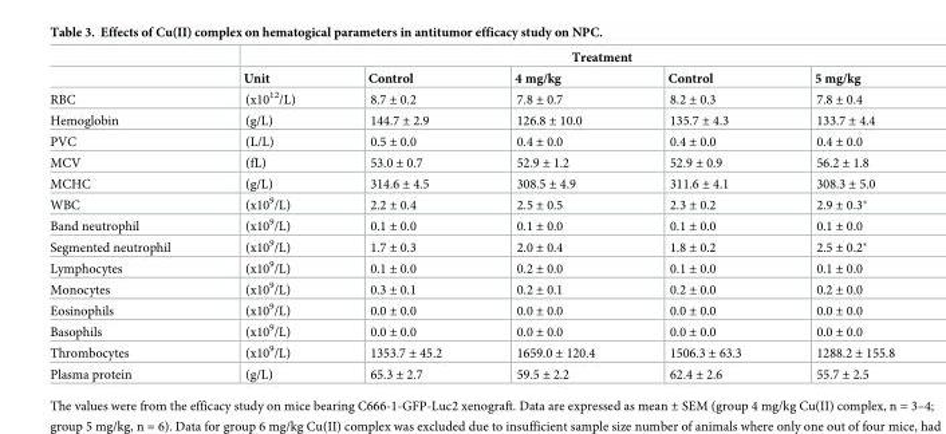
<table><thead><tr><td rowspan="2"></td><td colspan="5">Treatment</td></tr><tr><td>Unit</td><td>Control</td><td>4 mg/kg</td><td>Control</td><td>5 mg/kg</td></tr></thead><tbody><tr><td>RBC</td><td>(x10<sup>12</sup>/L)</td><td>8.7 ± 0.2</td><td>7.8 ± 0.7</td><td>8.2 ± 0.3</td><td>7.8 ± 0.4</td></tr><tr><td>Hemoglobin</td><td>(g/L)</td><td>144.7 ± 2.9</td><td>126.8 ± 10.0</td><td>135.7 ± 4.3</td><td>133.7 ± 4.4</td></tr><tr><td>PVC</td><td>(L/L)</td><td>0.5 ± 0.0</td><td>0.4 ± 0.0</td><td>0.4 ± 0.0</td><td>0.4 ± 0.0</td></tr><tr><td>MCV</td><td>(fL)</td><td>53.0 ± 0.7</td><td>52.9 ± 1.2</td><td>52.9 ± 0.9</td><td>56.2 ± 1.8</td></tr><tr><td>MCHC</td><td>(g/L)</td><td>314.6 ± 4.5</td><td>308.5 ± 4.9</td><td>311.6 ± 4.1</td><td>308.3 ± 5.0</td></tr><tr><td>WBC</td><td>(x10<sup>9</sup>/L)</td><td>2.2 ± 0.4</td><td>2.5 ± 0.5</td><td>2.3 ± 0.2</td><td>2.9 ± 0.3*</td></tr><tr><td>Band neutrophil</td><td>(x10<sup>9</sup>/L)</td><td>0.1 ± 0.0</td><td>0.1 ± 0.0</td><td>0.1 ± 0.0</td><td>0.1 ± 0.0</td></tr><tr><td>Segmented neutrophil</td><td>(x10<sup>9</sup>/L)</td><td>1.7 ± 0.3</td><td>2.0 ± 0.4</td><td>1.8 ± 0.2</td><td>2.5 ± 0.2*</td></tr><tr><td>Lymphocytes</td><td>(x10<sup>9</sup>/L)</td><td>0.1 ± 0.0</td><td>0.2 ± 0.0</td><td>0.1 ± 0.0</td><td>0.1 ± 0.0</td></tr><tr><td>Monocytes</td><td>(x10<sup>9</sup>/L)</td><td>0.3 ± 0.1</td><td>0.2 ± 0.1</td><td>0.2 ± 0.0</td><td>0.2 ± 0.0</td></tr><tr><td>Eosinophils</td><td>(x10<sup>9</sup>/L)</td><td>0.0 ± 0.0</td><td>0.0 ± 0.0</td><td>0.0 ± 0.0</td><td>0.0 ± 0.0</td></tr><tr><td>Basophils</td><td>(x10<sup>9</sup>/L)</td><td>0.0 ± 0.0</td><td>0.0 ± 0.0</td><td>0.0 ± 0.0</td><td>0.0 ± 0.0</td></tr><tr><td>Thrombocytes</td><td>(x10<sup>9</sup>/L)</td><td>1353.7 ± 45.2</td><td>1659.0 ± 120.4</td><td>1506.3 ± 63.3</td><td>1288.2 ± 155.8</td></tr><tr><td>Plasma protein</td><td>(g/L)</td><td>65.3 ± 2.7</td><td>59.5 ± 2.2</td><td>62.4 ± 2.6</td><td>55.7 ± 2.5</td></tr></tbody></table>